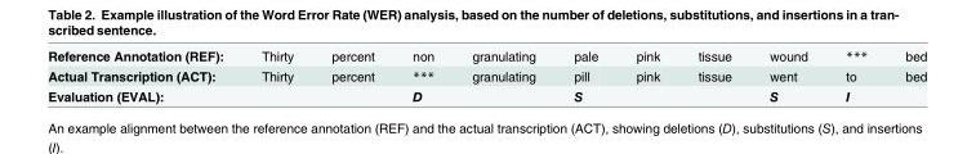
<table><tbody><tr><td>Reference Annotation (REF):</td><td>Thirty</td><td>percent</td><td>non</td><td>granulating</td><td>pale</td><td>pink</td><td>tissue</td><td>wound</td><td>***</td><td>bed</td></tr><tr><td>Actual Transcription (ACT):</td><td>Thirty</td><td>percent</td><td>***</td><td>granulating</td><td>pill</td><td>pink</td><td>tissue</td><td>went</td><td>to</td><td>bed</td></tr><tr><td>Evaluation (EVAL):</td><td></td><td></td><td>D</td><td></td><td>S</td><td></td><td></td><td>S</td><td>I</td><td></td></tr></tbody></table>